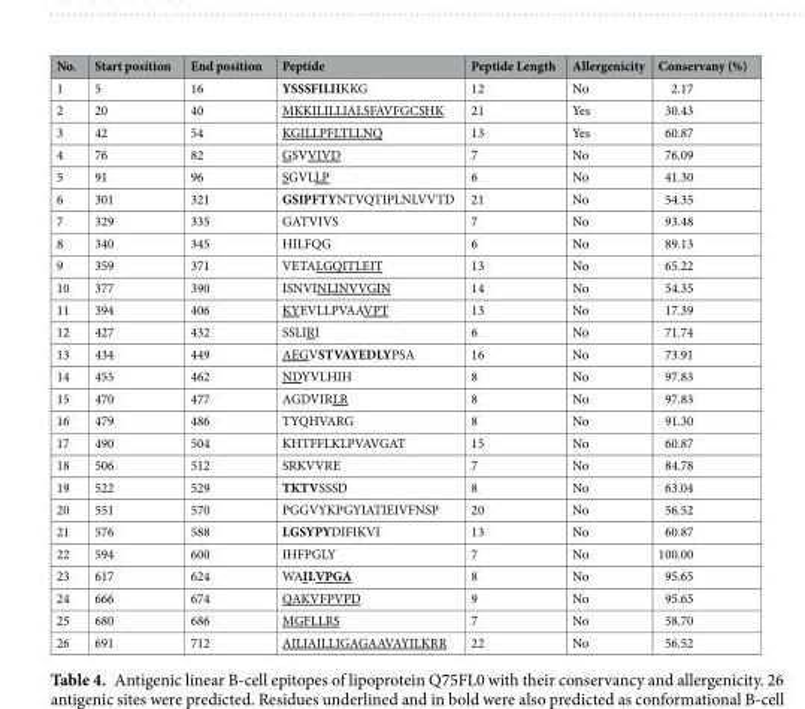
<table><thead><tr><td>No.</td><td>Start position</td><td>End position</td><td>Peptide</td><td>Peptide Length</td><td>Allergenicity</td><td>Conservany (%)</td></tr></thead><tbody><tr><td>1</td><td>5</td><td>16</td><td>YSSSFILIIKKG</td><td>12</td><td>No</td><td>2.17</td></tr><tr><td>2</td><td>20</td><td>40</td><td>MKKILILLIALSFAVFGCSHK</td><td>21</td><td>Yes</td><td>30.43</td></tr><tr><td>3</td><td>42</td><td>54</td><td>KGILLPFLTLLNQ</td><td>13</td><td>Yes</td><td>60.87</td></tr><tr><td>4</td><td>76</td><td>82</td><td>GSVVIVD</td><td>7</td><td>No</td><td>76.09</td></tr><tr><td>5</td><td>91</td><td>96</td><td>SGVLLP</td><td>6</td><td>No</td><td>41.30</td></tr><tr><td>6</td><td>301</td><td>321</td><td>GSIPFTYNTVQTIPLNLVVTD</td><td>21</td><td>No</td><td>54.35</td></tr><tr><td>7</td><td>329</td><td>335</td><td>GATVIVS</td><td>7</td><td>No</td><td>93.48</td></tr><tr><td>8</td><td>340</td><td>345</td><td>HILFQG</td><td>6</td><td>No</td><td>89.13</td></tr><tr><td>9</td><td>359</td><td>371</td><td>VETALGQITLEIT</td><td>13</td><td>No</td><td>65.22</td></tr><tr><td>10</td><td>377</td><td>390</td><td>ISNVINLINVVGIN</td><td>14</td><td>No</td><td>54.35</td></tr><tr><td>11</td><td>394</td><td>406</td><td>KYEVLLPVAAVPT</td><td>13</td><td>No</td><td>17.39</td></tr><tr><td>12</td><td>427</td><td>432</td><td>SSLIRI</td><td>6</td><td>No</td><td>71.74</td></tr><tr><td>13</td><td>434</td><td>449</td><td>AEGVSTVAYEDLYPSA</td><td>16</td><td>No</td><td>73.91</td></tr><tr><td>14</td><td>455</td><td>462</td><td>NDYVLHIH</td><td>8</td><td>No</td><td>97.83</td></tr><tr><td>15</td><td>470</td><td>477</td><td>AGDVIRLR</td><td>8</td><td>No</td><td>97.83</td></tr><tr><td>16</td><td>479</td><td>486</td><td>TYQHVARG</td><td>8</td><td>No</td><td>91.30</td></tr><tr><td>17</td><td>490</td><td>504</td><td>KHTFFLKLPVAVGAT</td><td>15</td><td>No</td><td>60.87</td></tr><tr><td>18</td><td>506</td><td>512</td><td>SRKVVRE</td><td>7</td><td>No</td><td>84.78</td></tr><tr><td>19</td><td>522</td><td>529</td><td>TKTVSSSD</td><td>8</td><td>No</td><td>63.04</td></tr><tr><td>20</td><td>551</td><td>570</td><td>PGGVYKPGYIATIEIVFNSP</td><td>20</td><td>No</td><td>56.52</td></tr><tr><td>21</td><td>576</td><td>588</td><td>LGSYPYDIFIKVI</td><td>13</td><td>No</td><td>60.87</td></tr><tr><td>22</td><td>594</td><td>600</td><td>IHFPGLY</td><td>7</td><td>No</td><td>100.00</td></tr><tr><td>23</td><td>617</td><td>624</td><td>WAILVPGA</td><td>8</td><td>No</td><td>95.65</td></tr><tr><td>24</td><td>666</td><td>674</td><td>QAKVFPVPD</td><td>9</td><td>No</td><td>95.65</td></tr><tr><td>25</td><td>680</td><td>686</td><td>MGFLLRS</td><td>7</td><td>No</td><td>58.70</td></tr><tr><td>26</td><td>691</td><td>712</td><td>AILIAILLIGAGAAVAYILKRR</td><td>22</td><td>No</td><td>56.52</td></tr></tbody></table>